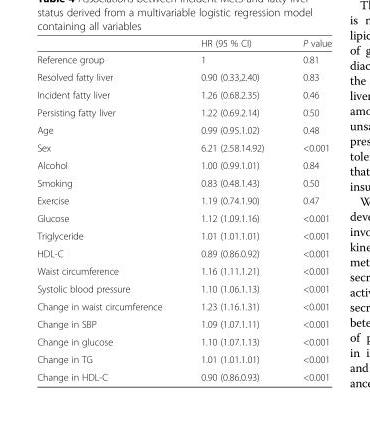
<table><thead><tr><td></td><td>HR (95 % CI)</td><td>P value</td></tr></thead><tbody><tr><td>Reference group</td><td>1</td><td>0.81</td></tr><tr><td>Resolved fatty liver</td><td>0.90 (0.33,2.40)</td><td>0.83</td></tr><tr><td>Incident fatty liver</td><td>1.26 (0.68.2.35)</td><td>0.46</td></tr><tr><td>Persisting fatty liver</td><td>1.22 (0.69.2.14)</td><td>0.50</td></tr><tr><td>Age</td><td>0.99 (0.95.1.02)</td><td>0.48</td></tr><tr><td>Sex</td><td>6.21 (2.58.14.92)</td><td>&lt;0.001</td></tr><tr><td>Alcohol</td><td>1.00 (0.99.1.01)</td><td>0.84</td></tr><tr><td>Smoking</td><td>0.83 (0.48.1.43)</td><td>0.50</td></tr><tr><td>Exercise</td><td>1.19 (0.74.1.90)</td><td>0.47</td></tr><tr><td>Glucose</td><td>1.12 (1.09.1.16)</td><td>&lt;0.001</td></tr><tr><td>Triglyceride</td><td>1.01 (1.01.1.01)</td><td>&lt;0.001</td></tr><tr><td>HDL-C</td><td>0.89 (0.86.0.92)</td><td>&lt;0.001</td></tr><tr><td>Waist circumference</td><td>1.16 (1.11.1.21)</td><td>&lt;0.001</td></tr><tr><td>Systolic blood pressure</td><td>1.10 (1.06.1.13)</td><td>&lt;0.001</td></tr><tr><td>Change in waist circumference</td><td>1.23 (1.16.1.31)</td><td>&lt;0.001</td></tr><tr><td>Change in SBP</td><td>1.09 (1.07.1.11)</td><td>&lt;0.001</td></tr><tr><td>Change in glucose</td><td>1.10 (1.07.1.13)</td><td>&lt;0.001</td></tr><tr><td>Change in TG</td><td>1.01 (1.01.1.01)</td><td>&lt;0.001</td></tr><tr><td>Change in HDL-C</td><td>0.90 (0.86.0.93)</td><td>&lt;0.001</td></tr></tbody></table>